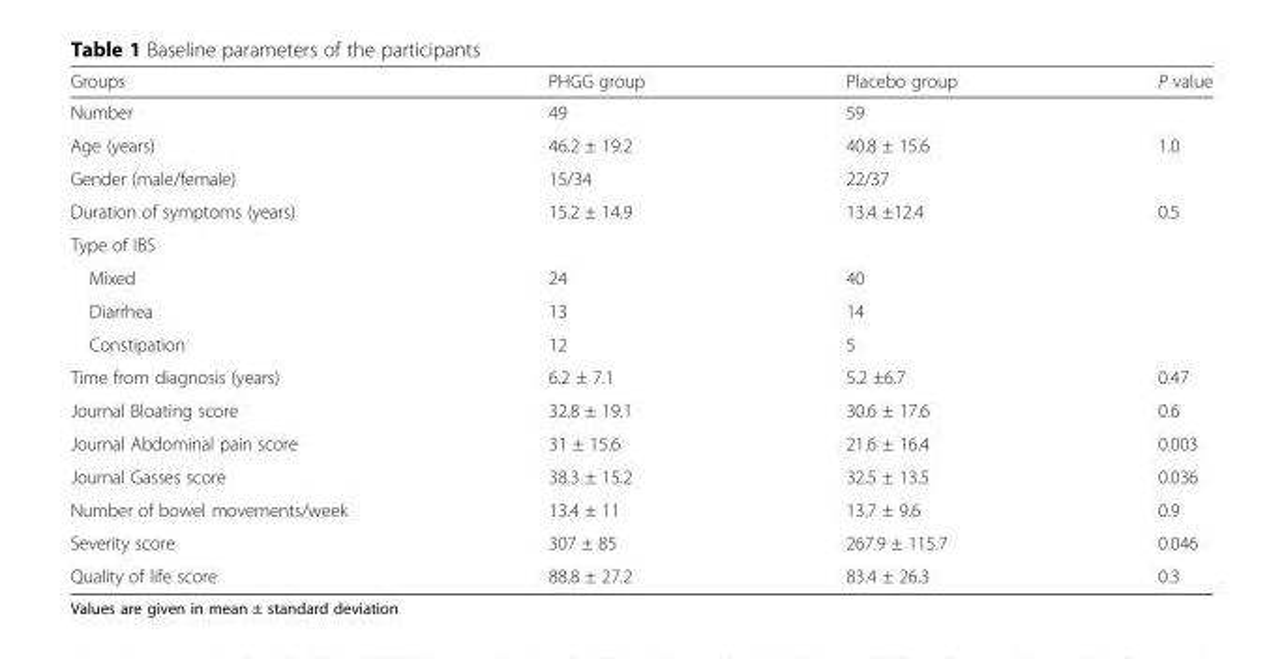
<table><thead><tr><td>Groups</td><td>PHGG group</td><td>Placebo group</td><td>P value</td></tr></thead><tbody><tr><td>Number</td><td>49</td><td>59</td><td></td></tr><tr><td>Age (years)</td><td>46.2 ± 19.2</td><td>40.8 ± 15.6</td><td>1.0</td></tr><tr><td>Gender (male/female)</td><td>15/34</td><td>22/37</td><td></td></tr><tr><td>Duration of symptoms (years)</td><td>15.2 ± 14.9</td><td>13.4 ±12.4</td><td>0.5</td></tr><tr><td colspan="4">Type of IBS</td></tr><tr><td>Mixed</td><td>24</td><td>40</td><td></td></tr><tr><td>Diarrhea</td><td>13</td><td>14</td><td></td></tr><tr><td>Constipation</td><td>12</td><td>5</td><td></td></tr><tr><td>Time from diagnosis (years)</td><td>6.2 ± 7.1</td><td>5.2 ±6.7</td><td>0.47</td></tr><tr><td>Journal Bloating score</td><td>32.8 ± 19.1</td><td>30.6 ± 17.6</td><td>0.6</td></tr><tr><td>Journal Abdominal pain score</td><td>31 ± 15.6</td><td>21.6 ± 16.4</td><td>0.003</td></tr><tr><td>Journal Gasses score</td><td>38.3 ± 15.2</td><td>32.5 ± 13.5</td><td>0.036</td></tr><tr><td>Number of bowel movements/week</td><td>13.4 ± 11</td><td>13.7 ± 9.6</td><td>0.9</td></tr><tr><td>Severity score</td><td>307 ± 85</td><td>267.9 ± 115.7</td><td>0.046</td></tr><tr><td>Quality of life score</td><td>88.8 ± 27.2</td><td>83.4 ± 26.3</td><td>0.3</td></tr></tbody></table>